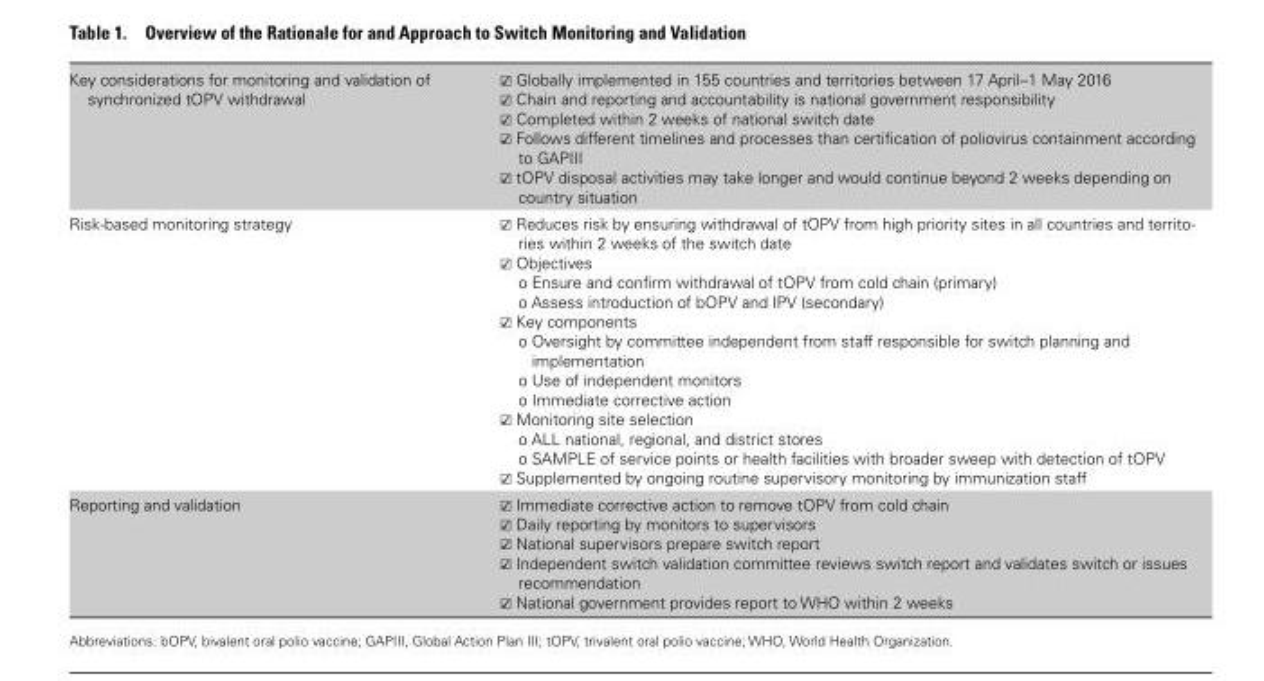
<table><tbody><tr><td>Key considerations for monitoring and validation of synchronized tOPV withdrawal</td><td>☑ Globally implemented in 155 countries and territories between 17 April–1 May 2016 ☑ Chain and reporting and accountability is national government responsibility ☑ Completed within 2 weeks of national switch date ☑ Follows different timelines and processes than certification of poliovirus containment according to GAPIII ☑ tOPV disposal activities may take longer and would continue beyond 2 weeks depending on country situation</td></tr><tr><td>Risk-based monitoring strategy</td><td>☑ Reduces risk by ensuring withdrawal of tOPV from high priority sites in all countries and territo- ries within 2 weeks of the switch date ☑ Objectives o Ensure and confirm withdrawal of tOPV from cold chain (primary) o Assess introduction of bOPV and IPV (secondary) ☑ Key components o Oversight by committee independent from staff responsible for switch planning and implementation o Use of independent monitors o Immediate corrective action ☑ Monitoring site selection o ALL national, regional, and district stores o SAMPLE of service points or health facilities with broader sweep with detection of tOPV ☑ Supplemented by ongoing routine supervisory monitoring by immunization staff</td></tr><tr><td>Reporting and validation</td><td>☑ Immediate corrective action to remove tOPV from cold chain ☑ Daily reporting by monitors to supervisors ☑ National supervisors prepare switch report ☑ Independent switch validation committee reviews switch report and validates switch or issues recommendation ☑ National government provides report to WHO within 2 weeks</td></tr></tbody></table>